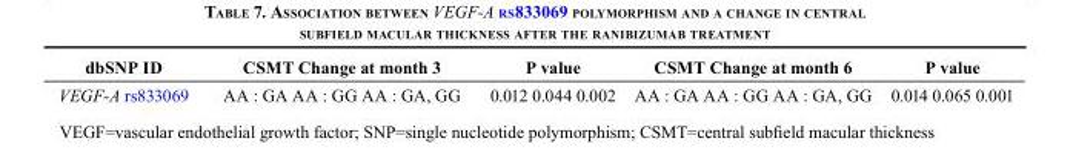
<table><thead><tr><td>dbSNP ID</td><td>CSMT Change at month 3</td><td>P value</td><td>CSMT Change at month 6</td><td>P value</td></tr></thead><tbody><tr><td>VEGF-A rs833069</td><td>AA : GA AA : GG AA : GA, GG</td><td>0.012 0.044 0.002</td><td>AA : GA AA : GG AA : GA, GG</td><td>0.014 0.065 0.001</td></tr></tbody></table>